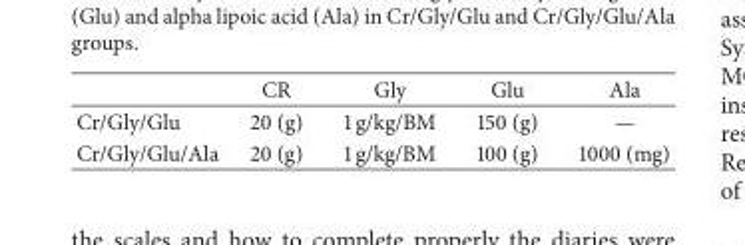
<table><thead><tr><td></td><td>CR</td><td>Gly</td><td>Glu</td><td>Ala</td></tr></thead><tbody><tr><td>Cr/Gly/Glu</td><td>20 (g)</td><td>1 g/kg/BM</td><td>150 (g)</td><td>—</td></tr><tr><td>Cr/Gly/Glu/Ala</td><td>20 (g)</td><td>1 g/kg/BM</td><td>100 (g)</td><td>1000 (mg)</td></tr></tbody></table>